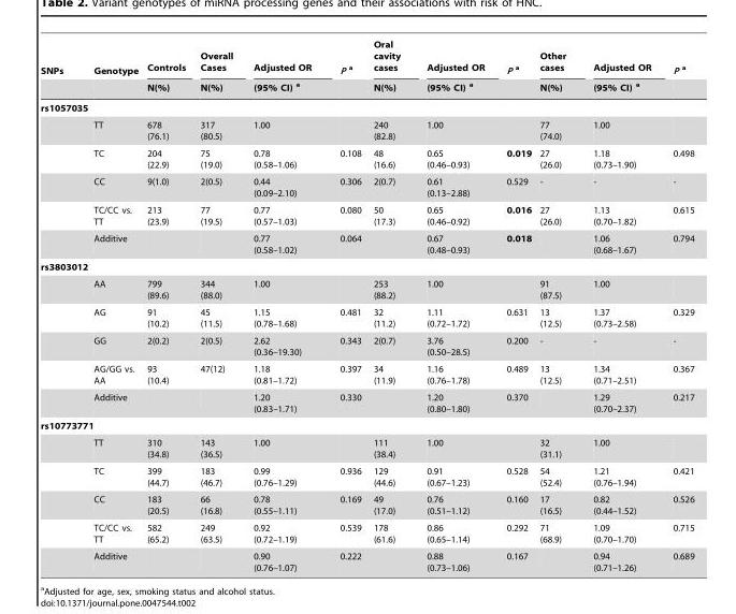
<table><thead><tr><td rowspan="2">SNPs</td><td rowspan="2">Genotype</td><td rowspan="2">Controls N(%)</td><td rowspan="2">Overall Cases N(%)</td><td rowspan="2">Adjusted OR (95% CI) a</td><td rowspan="2">P a</td><td rowspan="2">Oral cavity cases N(%)</td><td rowspan="2">Adjusted OR (95% CI) a</td><td rowspan="2">P a</td><td rowspan="2">Other cases N(%)</td><td rowspan="2">Adjusted OR (95% CI) a</td><td rowspan="2">P a</td></tr><tr></tr></thead><tbody><tr><td colspan="12">rs1057035</td></tr><tr><td></td><td>TT</td><td>678 (76.1)</td><td>317 (80.5)</td><td>1.00</td><td></td><td>240 (82.8)</td><td>1.00</td><td></td><td>77 (74.0)</td><td>1.00</td><td></td></tr><tr><td></td><td>TC</td><td>204 (22.9)</td><td>75 (19.0)</td><td>0.78 (0.58–1.06)</td><td>0.108</td><td>48 (16.6)</td><td>0.65 (0.46–0.93)</td><td>0.019</td><td>27 (26.0)</td><td>1.18 (0.73–1.90)</td><td>0.498</td></tr><tr><td></td><td>CC</td><td>9(1.0)</td><td>2(0.5)</td><td>0.44 (0.09–2.10)</td><td>0.306</td><td>2(0.7)</td><td>0.61 (0.13–2.88)</td><td>0.529</td><td>-</td><td>-</td><td>-</td></tr><tr><td></td><td>TC/CC vs. TT</td><td>213 (23.9)</td><td>77 (19.5)</td><td>0.77 (0.57–1.03)</td><td>0.080</td><td>50 (17.3)</td><td>0.65 (0.46–0.92)</td><td>0.016</td><td>27 (26.0)</td><td>1.13 (0.70–1.82)</td><td>0.615</td></tr><tr><td></td><td>Additive</td><td></td><td></td><td>0.77 (0.58–1.02)</td><td>0.064</td><td></td><td>0.67 (0.48–0.93)</td><td>0.018</td><td></td><td>1.06 (0.68–1.67)</td><td>0.794</td></tr><tr><td colspan="12">rs3803012</td></tr><tr><td></td><td>AA</td><td>799 (89.6)</td><td>344 (88.0)</td><td>1.00</td><td></td><td>253 (88.2)</td><td>1.00</td><td></td><td>91 (87.5)</td><td>1.00</td><td></td></tr><tr><td></td><td>AG</td><td>91 (10.2)</td><td>45 (11.5)</td><td>1.15 (0.78–1.68)</td><td>0.481</td><td>32 (11.2)</td><td>1.11 (0.72–1.72)</td><td>0.631</td><td>13 (12.5)</td><td>1.37 (0.73–2.58)</td><td>0.329</td></tr><tr><td></td><td>GG</td><td>2(0.2)</td><td>2(0.5)</td><td>2.62 (0.36–19.30)</td><td>0.343</td><td>2(0.7)</td><td>3.76 (0.50–28.5)</td><td>0.200</td><td>-</td><td>-</td><td>-</td></tr><tr><td></td><td>AG/GG vs. AA</td><td>93 (10.4)</td><td>47(12)</td><td>1.18 (0.81–1.72)</td><td>0.397</td><td>34 (11.9)</td><td>1.16 (0.76–1.78)</td><td>0.489</td><td>13 (12.5)</td><td>1.34 (0.71–2.51)</td><td>0.367</td></tr><tr><td></td><td>Additive</td><td></td><td></td><td>1.20 (0.83–1.71)</td><td>0.330</td><td></td><td>1.20 (0.80–1.80)</td><td>0.370</td><td></td><td>1.29 (0.70–2.37)</td><td>0.217</td></tr><tr><td colspan="12">rs10773771</td></tr><tr><td></td><td>TT</td><td>310 (34.8)</td><td>143 (36.5)</td><td>1.00</td><td></td><td>111 (38.4)</td><td>1.00</td><td></td><td>32 (31.1)</td><td>1.00</td><td></td></tr><tr><td></td><td>TC</td><td>399 (44.7)</td><td>183 (46.7)</td><td>0.99 (0.76–1.29)</td><td>0.936</td><td>129 (44.6)</td><td>0.91 (0.67–1.23)</td><td>0.528</td><td>54 (52.4)</td><td>1.21 (0.76–1.94)</td><td>0.421</td></tr><tr><td></td><td>CC</td><td>183 (20.5)</td><td>66 (16.8)</td><td>0.78 (0.55–1.11)</td><td>0.169</td><td>49 (17.0)</td><td>0.76 (0.51–1.12)</td><td>0.160</td><td>17 (16.5)</td><td>0.82 (0.44–1.52)</td><td>0.526</td></tr><tr><td></td><td>TC/CC vs. TT</td><td>582 (65.2)</td><td>249 (63.5)</td><td>0.92 (0.72–1.19)</td><td>0.539</td><td>178 (61.6)</td><td>0.86 (0.65–1.14)</td><td>0.292</td><td>71 (68.9)</td><td>1.09 (0.70–1.70)</td><td>0.715</td></tr><tr><td></td><td>Additive</td><td></td><td></td><td>0.90 (0.76–1.07)</td><td>0.222</td><td></td><td>0.88 (0.73–1.06)</td><td>0.167</td><td></td><td>0.94 (0.71–1.26)</td><td>0.689</td></tr></tbody></table>